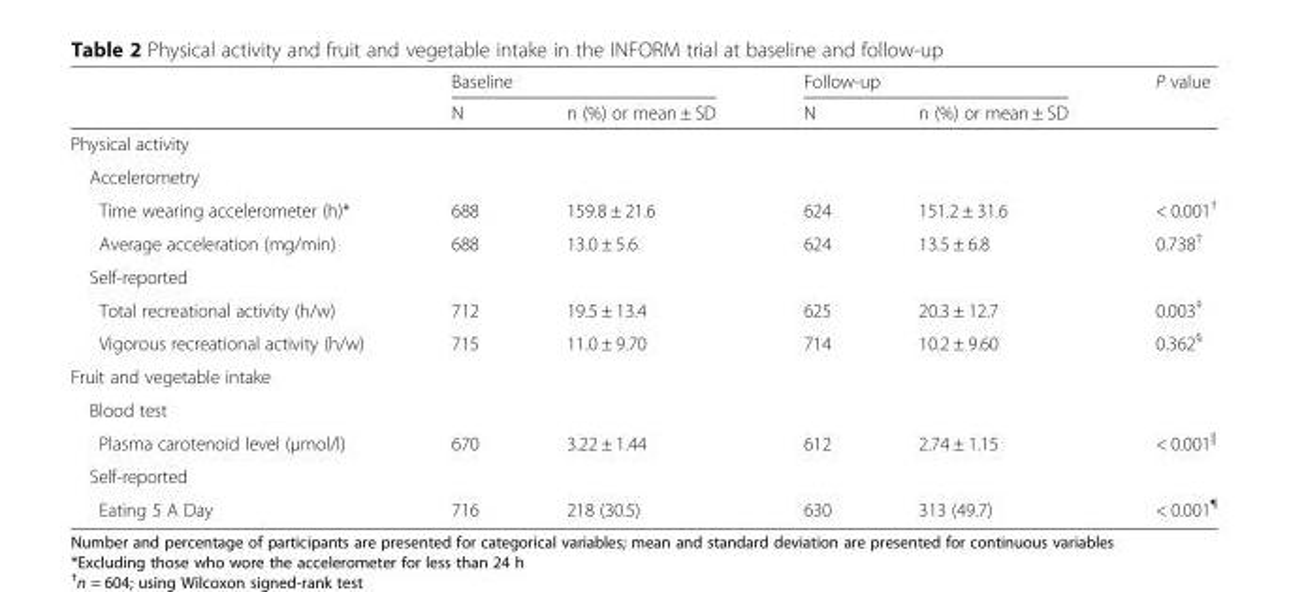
<table><thead><tr><td rowspan="2"></td><td colspan="2">Baseline</td><td colspan="2">Follow-up</td><td rowspan="2">P value</td></tr><tr><td>N</td><td>n (%) or mean ± SD</td><td>N</td><td>n (%) or mean ± SD</td></tr></thead><tbody><tr><td colspan="6">Physical activity</td></tr><tr><td colspan="6">Accelerometry</td></tr><tr><td>Time wearing accelerometer (h)*</td><td>688</td><td>159.8 ± 21.6</td><td>624</td><td>151.2 ± 31.6</td><td>&lt; 0.001<sup>†</sup></td></tr><tr><td>Average acceleration (mg/min)</td><td>688</td><td>13.0 ± 5.6</td><td>624</td><td>13.5 ± 6.8</td><td>0.738<sup>†</sup></td></tr><tr><td colspan="6">Self-reported</td></tr><tr><td>Total recreational activity (h/w)</td><td>712</td><td>19.5 ± 13.4</td><td>625</td><td>20.3 ± 12.7</td><td>0.003<sup>‡</sup></td></tr><tr><td>Vigorous recreational activity (h/w)</td><td>715</td><td>11.0 ± 9.70</td><td>714</td><td>10.2 ± 9.60</td><td>0.362<sup>§</sup></td></tr><tr><td colspan="6">Fruit and vegetable intake</td></tr><tr><td colspan="6">Blood test</td></tr><tr><td>Plasma carotenoid level (μmol/l)</td><td>670</td><td>3.22 ± 1.44</td><td>612</td><td>2.74 ± 1.15</td><td>&lt; 0.001<sup>||</sup></td></tr><tr><td colspan="6">Self-reported</td></tr><tr><td>Eating 5 A Day</td><td>716</td><td>218 (30.5)</td><td>630</td><td>313 (49.7)</td><td>&lt; 0.001<sup>¶</sup></td></tr></tbody></table>